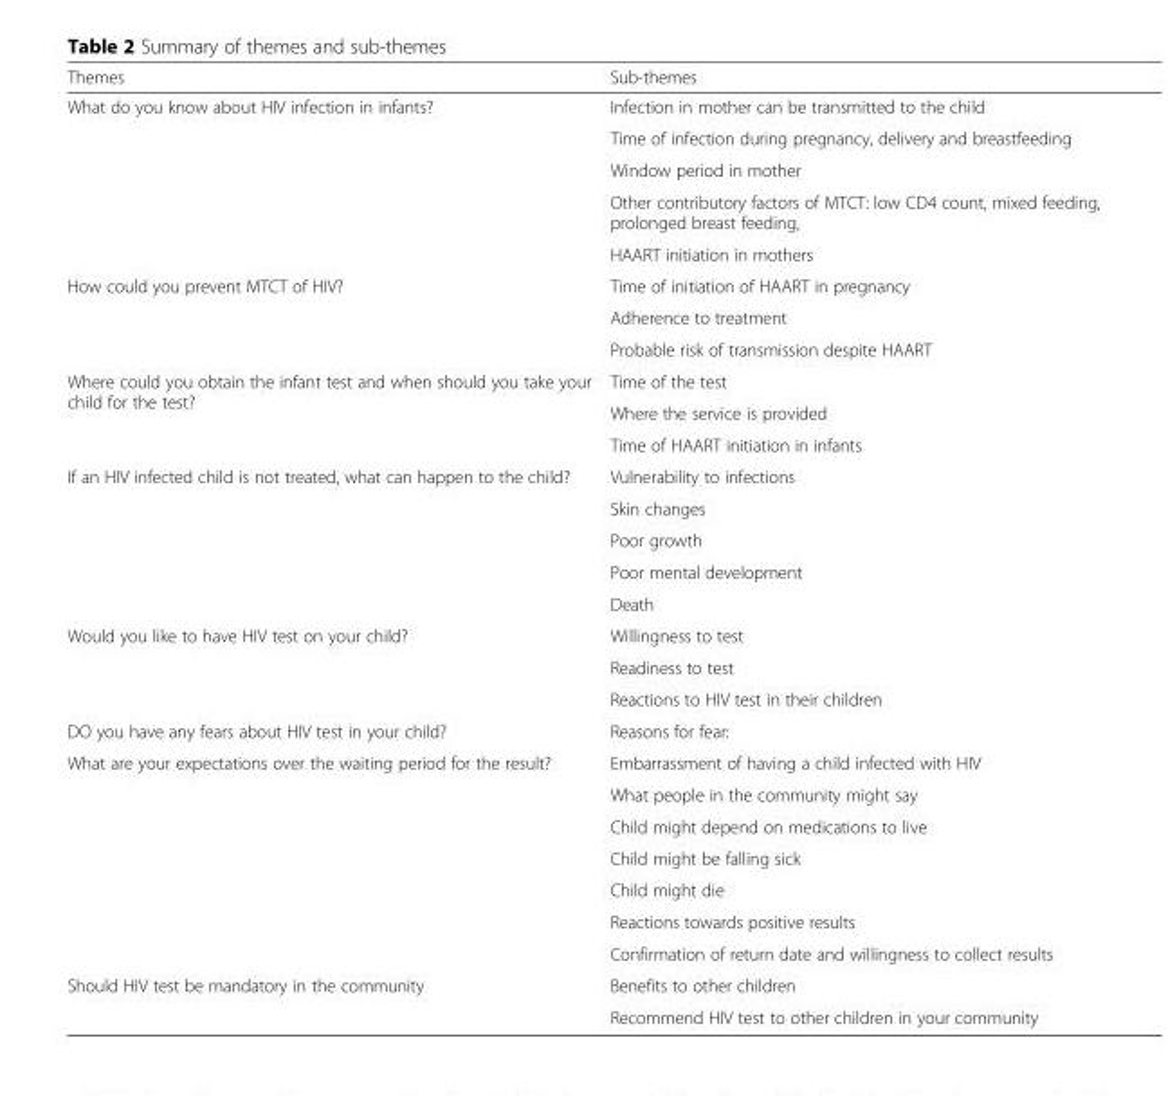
<table><thead><tr><td>Themes</td><td>Sub-themes</td></tr></thead><tbody><tr><td rowspan="5">What do you know about HIV infection in infants?</td><td>Infection in mother can be transmitted to the child</td></tr><tr><td>Time of infection during pregnancy, delivery and breastfeeding</td></tr><tr><td>Window period in mother</td></tr><tr><td>Other contributory factors of MTCT: low CD4 count, mixed feeding, prolonged breast feeding,</td></tr><tr><td>HAART initiation in mothers</td></tr><tr><td rowspan="3">How could you prevent MTCT of HIV?</td><td>Time of initiation of HAART in pregnancy</td></tr><tr><td>Adherence to treatment</td></tr><tr><td>Probable risk of transmission despite HAART</td></tr><tr><td rowspan="3">Where could you obtain the infant test and when should you take your child for the test?</td><td>Time of the test</td></tr><tr><td>Where the service is provided</td></tr><tr><td>Time of HAART initiation in infants</td></tr><tr><td rowspan="5">If an HIV infected child is not treated, what can happen to the child?</td><td>Vulnerability to infections</td></tr><tr><td>Skin changes</td></tr><tr><td>Poor growth</td></tr><tr><td>Poor mental development</td></tr><tr><td>Death</td></tr><tr><td rowspan="3">Would you like to have HIV test on your child?</td><td>Willingness to test</td></tr><tr><td>Readiness to test</td></tr><tr><td>Reactions to HIV test in their children</td></tr><tr><td>DO you have any fears about HIV test in your child?</td><td>Reasons for fear:</td></tr><tr><td rowspan="7">What are your expectations over the waiting period for the result?</td><td>Embarrassment of having a child infected with HIV</td></tr><tr><td>What people in the community might say</td></tr><tr><td>Child might depend on medications to live</td></tr><tr><td>Child might be falling sick</td></tr><tr><td>Child might die</td></tr><tr><td>Reactions towards positive results</td></tr><tr><td>Confirmation of return date and willingness to collect results</td></tr><tr><td rowspan="2">Should HIV test be mandatory in the community</td><td>Benefits to other children</td></tr><tr><td>Recommend HIV test to other children in your community</td></tr></tbody></table>